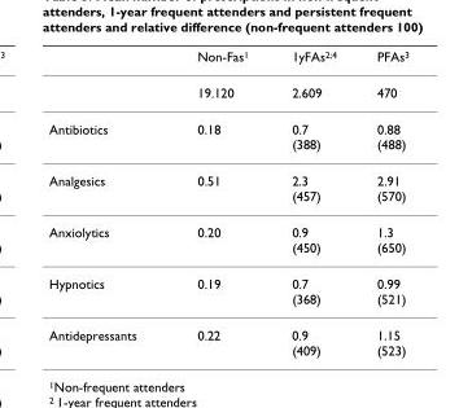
<table><thead><tr><td></td><td>Non-Fas<sup>1</sup></td><td>1yFAs<sup>2;4</sup></td><td>PFAs<sup>3</sup></td></tr></thead><tbody><tr><td></td><td>19.120</td><td>2.609</td><td>470</td></tr><tr><td>Antibiotics</td><td>0.18</td><td>0.7 (388)</td><td>0.88 (488)</td></tr><tr><td>Analgesics</td><td>0.51</td><td>2.3 (457)</td><td>2.91 (570)</td></tr><tr><td>Anxiolytics</td><td>0.20</td><td>0.9 (450)</td><td>1.3 (650)</td></tr><tr><td>Hypnotics</td><td>0.19</td><td>0.7 (368)</td><td>0.99 (521)</td></tr><tr><td>Antidepressants</td><td>0.22</td><td>0.9 (409)</td><td>1.15 (523)</td></tr></tbody></table>